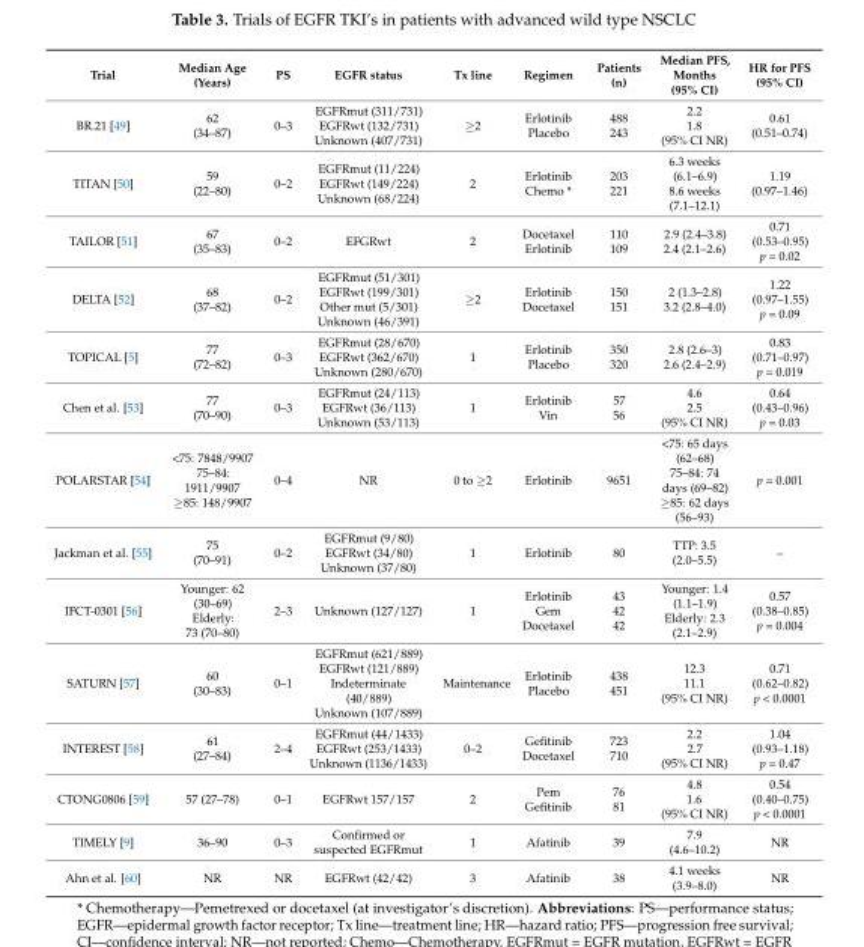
<table><thead><tr><td>Trial</td><td>Median Age (Years)</td><td>PS</td><td>EGFR status</td><td>Tx line</td><td>Regimen</td><td>Patients (n)</td><td>Median PFS, Months (95% CI)</td><td>HR for PFS (95% CI)</td></tr></thead><tbody><tr><td>BR.21 [49]</td><td>62 (34–87)</td><td>0–3</td><td>EGFRmut (311/731) EGFRwt (132/731) Unknown (407/731)</td><td>≥2</td><td>Erlotinib Placebo</td><td>488 243</td><td>2.2 1.8 (95% CI NR)</td><td>0.61 (0.51–0.74)</td></tr><tr><td>TITAN [50]</td><td>59 (22–80)</td><td>0–2</td><td>EGFRmut (11/224) EGFRwt (149/224) Unknown (68/224)</td><td>2</td><td>Erlotinib Chemo *</td><td>203 221</td><td>6.3 weeks (6.1–6.9) 8.6 weeks (7.1–12.1)</td><td>1.19 (0.97–1.46)</td></tr><tr><td>TAILOR [51]</td><td>67 (35–83)</td><td>0–2</td><td>EFGRwt</td><td>2</td><td>Docetaxel Erlotinib</td><td>110 109</td><td>2.9 (2.4–3.8) 2.4 (2.1–2.6)</td><td>0.71 (0.53–0.95) p = 0.02</td></tr><tr><td>DELTA [52]</td><td>68 (37–82)</td><td>0–2</td><td>EGFRmut (51/301) EGFRwt (199/301) Other mut (5/301) Unknown (46/391)</td><td>≥2</td><td>Erlotinib Docetaxel</td><td>150 151</td><td>2 (1.3–2.8) 3.2 (2.8–4.0)</td><td>1.22 (0.97–1.55) p = 0.09</td></tr><tr><td>TOPICAL [5]</td><td>77 (72–82)</td><td>0–3</td><td>EGFRmut (28/670) EGFRwt (362/670) Unknown (280/670)</td><td>1</td><td>Erlotinib Placebo</td><td>350 320</td><td>2.8 (2.6–3) 2.6 (2.4–2.9)</td><td>0.83 (0.71–0.97) p = 0.019</td></tr><tr><td>Chen et al. [53]</td><td>77 (70–90)</td><td>0–3</td><td>EGFRmut (24/113) EGFRwt (36/113) Unknown (53/113)</td><td>1</td><td>Erlotinib Vin</td><td>57 56</td><td>4.6 2.5 (95% CI NR)</td><td>0.64 (0.43–0.96) p = 0.03</td></tr><tr><td>POLARSTAR [54]</td><td>&lt;75: 7848/9907 75–84: 1911/9907 ≥85: 148/9907</td><td>0–4</td><td>NR</td><td>0 to ≥2</td><td>Erlotinib</td><td>9651</td><td>&lt;75: 65 days (62–68) 75–84: 74 days (69–82) ≥85: 62 days (56–93)</td><td>p = 0.001</td></tr><tr><td>Jackman et al. [55]</td><td>75 (70–91)</td><td>0–2</td><td>EGFRmut (9/80) EGFRwt (34/80) Unknown (37/80)</td><td>1</td><td>Erlotinib</td><td>80</td><td>TTP: 3.5 (2.0–5.5)</td><td>–</td></tr><tr><td>IFCT-0301 [56]</td><td>Younger: 62 (30–69) Elderly: 73 (70–80)</td><td>2–3</td><td>Unknown (127/127)</td><td>1</td><td>Erlotinib Gem Docetaxel</td><td>43 42 42</td><td>Younger: 1.4 (1.1–1.9) Elderly: 2.3 (2.1–2.9)</td><td>0.57 (0.38–0.85) p = 0.004</td></tr><tr><td>SATURN [57]</td><td>60 (30–83)</td><td>0–1</td><td>EGFRmut (621/889) EGFRwt (121/889) Indeterminate (40/889) Unknown (107/889)</td><td>Maintenance</td><td>Erlotinib Placebo</td><td>438 451</td><td>12.3 11.1 (95% CI NR)</td><td>0.71 (0.62–0.82) p &lt; 0.0001</td></tr><tr><td>INTEREST [58]</td><td>61 (27–84)</td><td>2–4</td><td>EGFRmut (44/1433) EGFRwt (253/1433) Unknown (1136/1433)</td><td>0–2</td><td>Gefitinib Docetaxel</td><td>723 710</td><td>2.2 2.7 (95% CI NR)</td><td>1.04 (0.93–1.18) p = 0.47</td></tr><tr><td>CTONG0806 [59]</td><td>57 (27–78)</td><td>0–1</td><td>EGFRwt 157/157</td><td>2</td><td>Pem Gefitinib</td><td>76 81</td><td>4.8 1.6 (95% CI NR)</td><td>0.54 (0.40–0.75) p &lt; 0.0001</td></tr><tr><td>TIMELY [9]</td><td>36–90</td><td>0–3</td><td>Confirmed or suspected EGFRmut</td><td>1</td><td>Afatinib</td><td>39</td><td>7.9 (4.6–10.2)</td><td>NR</td></tr><tr><td>Ahn et al. [60]</td><td>NR</td><td>NR</td><td>EGFRwt (42/42)</td><td>3</td><td>Afatinib</td><td>38</td><td>4.1 weeks (3.9–8.0)</td><td>NR</td></tr></tbody></table>